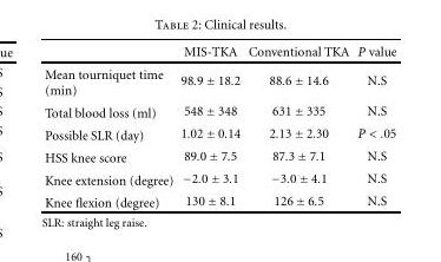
<table><thead><tr><td></td><td>MIS-TKA</td><td>Conventional TKA</td><td>P value</td></tr></thead><tbody><tr><td>Mean tourniquet time (min)</td><td>98.9 ± 18.2</td><td>88.6 ± 14.6</td><td>N.S</td></tr><tr><td>Total blood loss (ml)</td><td>548 ± 348</td><td>631 ± 335</td><td>N.S</td></tr><tr><td>Possible SLR (day)</td><td>1.02 ± 0.14</td><td>2.13 ± 2.30</td><td>P &lt; .05</td></tr><tr><td>HSS knee score</td><td>89.0 ± 7.5</td><td>87.3 ± 7.1</td><td>N.S</td></tr><tr><td>Knee extension (degree)</td><td>−2.0 ± 3.1</td><td>−3.0 ± 4.1</td><td>N.S</td></tr><tr><td>Knee flexion (degree)</td><td>130 ± 8.1</td><td>126 ± 6.5</td><td>N.S</td></tr></tbody></table>